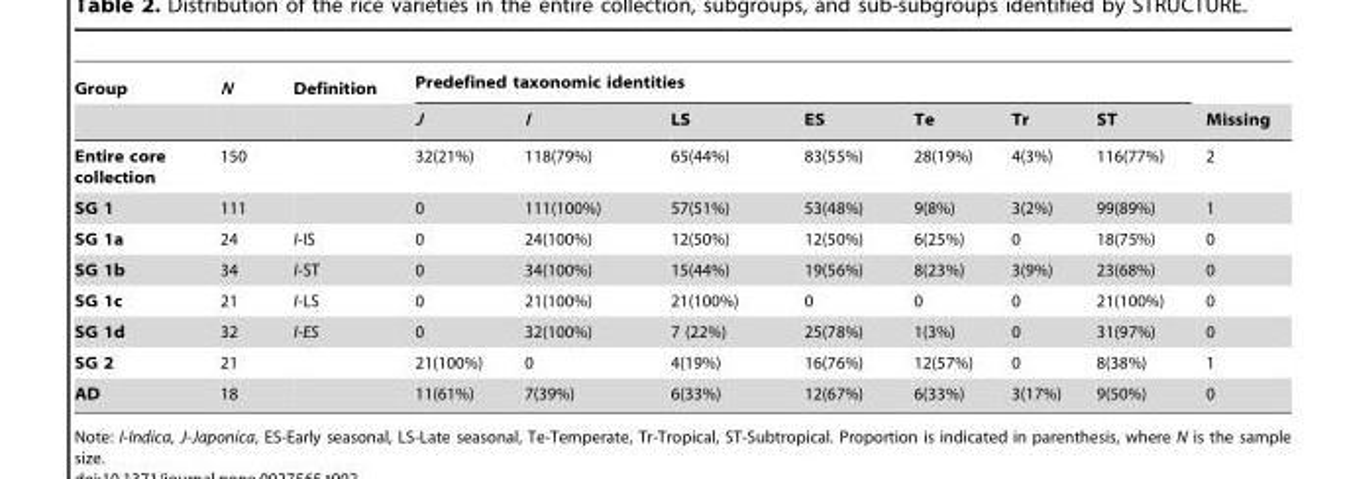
<table><thead><tr><td rowspan="2">Group</td><td rowspan="2">N</td><td rowspan="2">Definition</td><td colspan="7">Predefined taxonomic identities</td><td rowspan="2">Missing</td></tr><tr><td>J</td><td>I</td><td>LS</td><td>ES</td><td>Te</td><td>Tr</td><td>ST</td></tr></thead><tbody><tr><td>Entire core collection</td><td>150</td><td></td><td>32(21%)</td><td>118(79%)</td><td>65(44%)</td><td>83(55%)</td><td>28(19%)</td><td>4(3%)</td><td>116(77%)</td><td>2</td></tr><tr><td>SG 1</td><td>111</td><td></td><td>0</td><td>111(100%)</td><td>57(51%)</td><td>53(48%)</td><td>9(8%)</td><td>3(2%)</td><td>99(89%)</td><td>1</td></tr><tr><td>SG 1a</td><td>24</td><td>I-IS</td><td>0</td><td>24(100%)</td><td>12(50%)</td><td>12(50%)</td><td>6(25%)</td><td>0</td><td>18(75%)</td><td>0</td></tr><tr><td>SG 1b</td><td>34</td><td>I-ST</td><td>0</td><td>34(100%)</td><td>15(44%)</td><td>19(56%)</td><td>8(23%)</td><td>3(9%)</td><td>23(68%)</td><td>0</td></tr><tr><td>SG 1c</td><td>21</td><td>I-LS</td><td>0</td><td>21(100%)</td><td>21(100%)</td><td>0</td><td>0</td><td>0</td><td>21(100%)</td><td>0</td></tr><tr><td>SG 1d</td><td>32</td><td>I-ES</td><td>0</td><td>32(100%)</td><td>7 (22%)</td><td>25(78%)</td><td>1(3%)</td><td>0</td><td>31(97%)</td><td>0</td></tr><tr><td>SG 2</td><td>21</td><td></td><td>21(100%)</td><td>0</td><td>4(19%)</td><td>16(76%)</td><td>12(57%)</td><td>0</td><td>8(38%)</td><td>1</td></tr><tr><td>AD</td><td>18</td><td></td><td>11(61%)</td><td>7(39%)</td><td>6(33%)</td><td>12(67%)</td><td>6(33%)</td><td>3(17%)</td><td>9(50%)</td><td>0</td></tr></tbody></table>